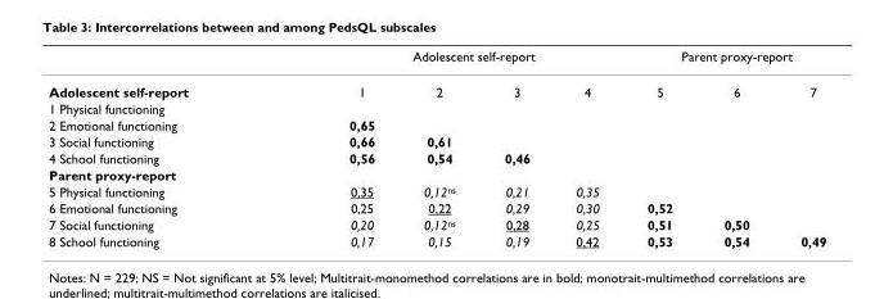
<table><thead><tr><td rowspan="2">Adolescent self-report</td><td colspan="4">Adolescent self-report</td><td colspan="3">Parent proxy-report</td></tr><tr><td>1</td><td>2</td><td>3</td><td>4</td><td>5</td><td>6</td><td>7</td></tr></thead><tbody><tr><td colspan="8">1 Physical functioning</td></tr><tr><td>2 Emotional functioning</td><td>0,65</td><td></td><td></td><td></td><td></td><td></td><td></td></tr><tr><td>3 Social functioning</td><td>0,66</td><td>0,61</td><td></td><td></td><td></td><td></td><td></td></tr><tr><td>4 School functioning</td><td>0,56</td><td>0,54</td><td>0,46</td><td></td><td></td><td></td><td></td></tr><tr><td colspan="8">Parent proxy-report</td></tr><tr><td>5 Physical functioning</td><td>0,35</td><td>0,12<sup>ns</sup></td><td>0,21</td><td>0,35</td><td></td><td></td><td></td></tr><tr><td>6 Emotional functioning</td><td>0,25</td><td>0,22</td><td>0,29</td><td>0,30</td><td>0,52</td><td></td><td></td></tr><tr><td>7 Social functioning</td><td>0,20</td><td>0,12<sup>ns</sup></td><td>0,28</td><td>0,25</td><td>0,51</td><td>0,50</td><td></td></tr><tr><td>8 School functioning</td><td>0,17</td><td>0,15</td><td>0,19</td><td>0,42</td><td>0,53</td><td>0,54</td><td>0,49</td></tr></tbody></table>